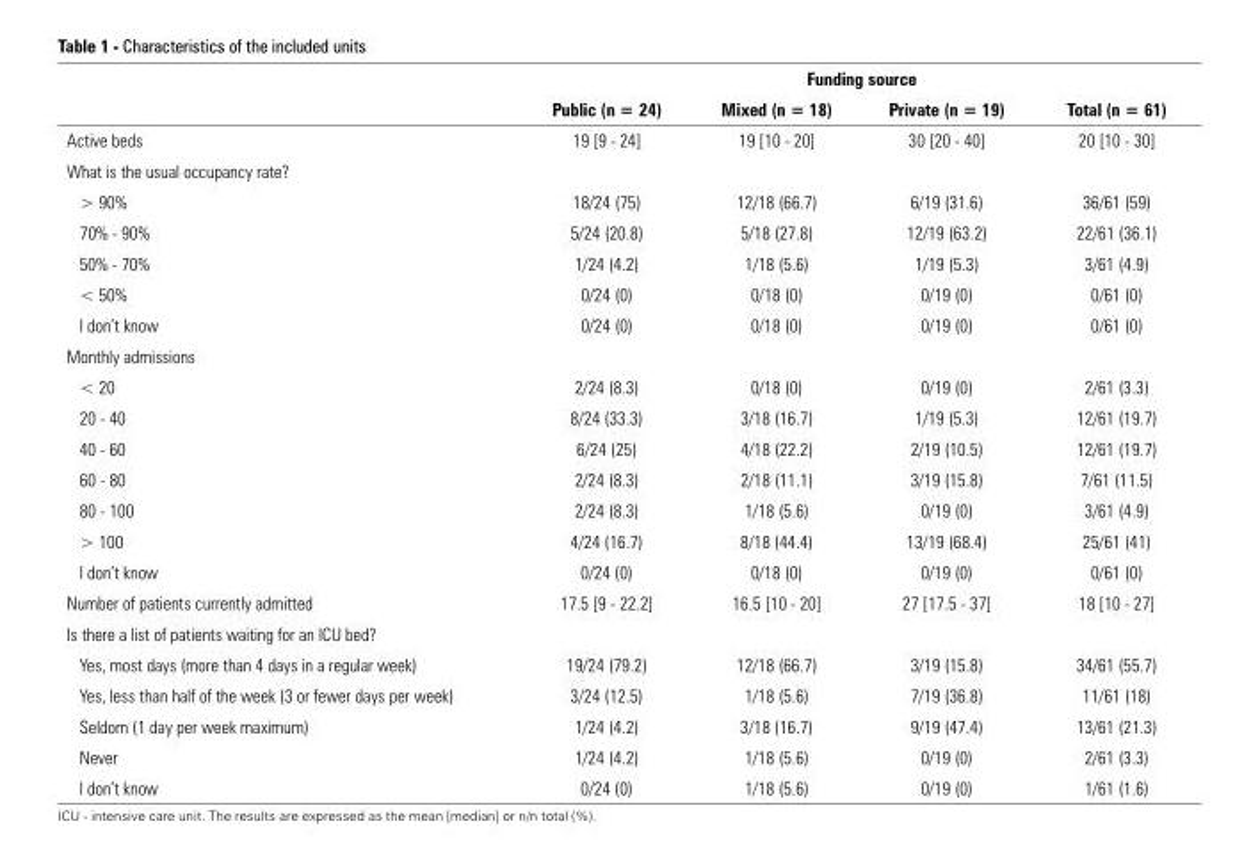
<table><thead><tr><td rowspan="2"></td><td colspan="4">Funding source</td></tr><tr><td>Public (n = 24)</td><td>Mixed (n = 18)</td><td>Private (n = 19)</td><td>Total (n = 61)</td></tr></thead><tbody><tr><td>Active beds</td><td>19 [9 - 24]</td><td>19 [10 - 20]</td><td>30 [20 - 40]</td><td>20 [10 - 30]</td></tr><tr><td colspan="5">What is the usual occupancy rate?</td></tr><tr><td>&gt; 90%</td><td>18/24 (75)</td><td>12/18 (66.7)</td><td>6/19 (31.6)</td><td>36/61 (59)</td></tr><tr><td>70% - 90%</td><td>5/24 (20.8)</td><td>5/18 (27.8)</td><td>12/19 (63.2)</td><td>22/61 (36.1)</td></tr><tr><td>50% - 70%</td><td>1/24 (4.2)</td><td>1/18 (5.6)</td><td>1/19 (5.3)</td><td>3/61 (4.9)</td></tr><tr><td>&lt; 50%</td><td>0/24 (0)</td><td>0/18 (0)</td><td>0/19 (0)</td><td>0/61 (0)</td></tr><tr><td>I don’t know</td><td>0/24 (0)</td><td>0/18 (0)</td><td>0/19 (0)</td><td>0/61 (0)</td></tr><tr><td colspan="5">Monthly admissions</td></tr><tr><td>&lt; 20</td><td>2/24 (8.3)</td><td>0/18 (0)</td><td>0/19 (0)</td><td>2/61 (3.3)</td></tr><tr><td>20 - 40</td><td>8/24 (33.3)</td><td>3/18 (16.7)</td><td>1/19 (5.3)</td><td>12/61 (19.7)</td></tr><tr><td>40 - 60</td><td>6/24 (25)</td><td>4/18 (22.2)</td><td>2/19 (10.5)</td><td>12/61 (19.7)</td></tr><tr><td>60 - 80</td><td>2/24 (8.3)</td><td>2/18 (11.1)</td><td>3/19 (15.8)</td><td>7/61 (11.5)</td></tr><tr><td>80 - 100</td><td>2/24 (8.3)</td><td>1/18 (5.6)</td><td>0/19 (0)</td><td>3/61 (4.9)</td></tr><tr><td>&gt; 100</td><td>4/24 (16.7)</td><td>8/18 (44.4)</td><td>13/19 (68.4)</td><td>25/61 (41)</td></tr><tr><td>I don’t know</td><td>0/24 (0)</td><td>0/18 (0)</td><td>0/19 (0)</td><td>0/61 (0)</td></tr><tr><td>Number of patients currently admitted</td><td>17.5 [9 - 22.2]</td><td>16.5 [10 - 20]</td><td>27 [17.5 - 37]</td><td>18 [10 - 27]</td></tr><tr><td colspan="5">Is there a list of patients waiting for an ICU bed?</td></tr><tr><td>Yes, most days (more than 4 days in a regular week)</td><td>19/24 (79.2)</td><td>12/18 (66.7)</td><td>3/19 (15.8)</td><td>34/61 (55.7)</td></tr><tr><td>Yes, less than half of the week (3 or fewer days per week)</td><td>3/24 (12.5)</td><td>1/18 (5.6)</td><td>7/19 (36.8)</td><td>11/61 (18)</td></tr><tr><td>Seldom (1 day per week maximum)</td><td>1/24 (4.2)</td><td>3/18 (16.7)</td><td>9/19 (47.4)</td><td>13/61 (21.3)</td></tr><tr><td>Never</td><td>1/24 (4.2)</td><td>1/18 (5.6)</td><td>0/19 (0)</td><td>2/61 (3.3)</td></tr><tr><td>I don’t know</td><td>0/24 (0)</td><td>1/18 (5.6)</td><td>0/19 (0)</td><td>1/61 (1.6)</td></tr></tbody></table>